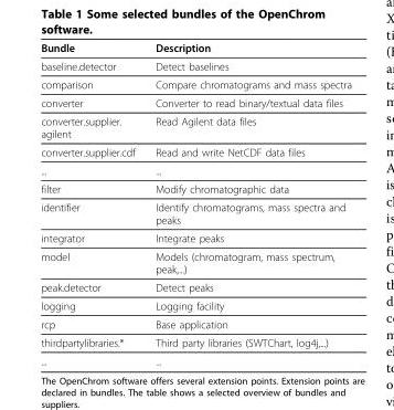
<table><thead><tr><td>Bundle</td><td>Description</td></tr></thead><tbody><tr><td>baseline.detector</td><td>Detect baselines</td></tr><tr><td>comparison</td><td>Compare chromatograms and mass spectra</td></tr><tr><td>converter</td><td>Converter to read binary/textual data files</td></tr><tr><td>converter.supplier. agilent</td><td>Read Agilent data files</td></tr><tr><td>converter.supplier.cdf</td><td>Read and write NetCDF data files</td></tr><tr><td>...</td><td>...</td></tr><tr><td>filter</td><td>Modify chromatographic data</td></tr><tr><td>identifier</td><td>Identify chromatograms, mass spectra and peaks</td></tr><tr><td>integrator</td><td>Integrate peaks</td></tr><tr><td>model</td><td>Models (chromatogram, mass spectrum, peak,...)</td></tr><tr><td>peak.detector</td><td>Detect peaks</td></tr><tr><td>logging</td><td>Logging facility</td></tr><tr><td>rcp</td><td>Base application</td></tr><tr><td>thirdpartylibraries.*</td><td>Third party libraries (SWTChart, log4j,...)</td></tr><tr><td>...</td><td>...</td></tr></tbody></table>